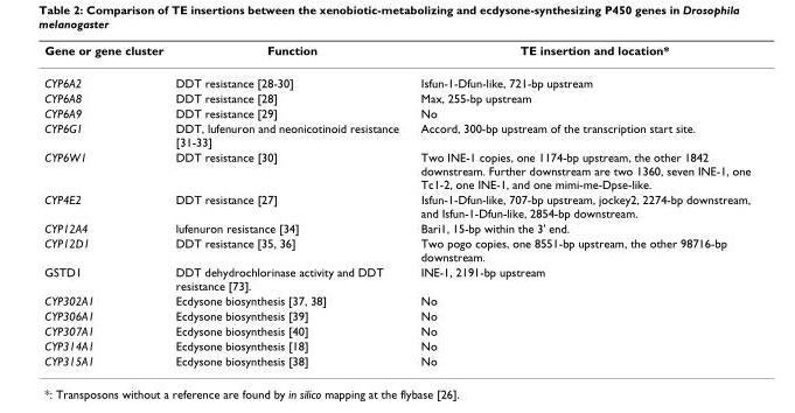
<table><thead><tr><td>Gene or gene cluster</td><td>Function</td><td>TE insertion and location*</td></tr></thead><tbody><tr><td>CYP6A2</td><td>DDT resistance [28-30]</td><td>Isfun-1-Dfun-like, 721-bp upstream</td></tr><tr><td>CYP6A8</td><td>DDT resistance [28]</td><td>Max, 255-bp upstream</td></tr><tr><td>CYP6A9</td><td>DDT resistance [29]</td><td>No</td></tr><tr><td>CYP6G1</td><td>DDT, lufenuron and neonicotinoid resistance [31-33]</td><td>Accord, 300-bp upstream of the transcription start site.</td></tr><tr><td>CYP6W1</td><td>DDT resistance [30]</td><td>Two INE-1 copies, one 1174-bp upstream, the other 1842 downstream. Further downstream are two 1360, seven INE-1, one Tc1-2, one INE-1, and one mimi-me-Dpse-like.</td></tr><tr><td>CYP4E2</td><td>DDT resistance [27]</td><td>Isfun-1-Dfun-like, 707-bp upstream, jockey2, 2274-bp downstream, and Isfun-1-Dfun-like, 2854-bp downstream.</td></tr><tr><td>CYP12A4</td><td>lufenuron resistance [34]</td><td>Bari1, 15-bp within the 3&#x27; end.</td></tr><tr><td>CYP12D1</td><td>DDT resistance [35, 36]</td><td>Two pogo copies, one 8551-bp upstream, the other 98716-bp downstream.</td></tr><tr><td>GSTD1</td><td>DDT dehydrochlorinase activity and DDT resistance [73].</td><td>INE-1, 2191-bp upstream</td></tr><tr><td>CYP302A1</td><td>Ecdysone biosynthesis [37, 38]</td><td>No</td></tr><tr><td>CYP306A1</td><td>Ecdysone biosynthesis [39]</td><td>No</td></tr><tr><td>CYP307A1</td><td>Ecdysone biosynthesis [40]</td><td>No</td></tr><tr><td>CYP314A1</td><td>Ecdysone biosynthesis [18]</td><td>No</td></tr><tr><td>CYP315A1</td><td>Ecdysone biosynthesis [38]</td><td>No</td></tr></tbody></table>